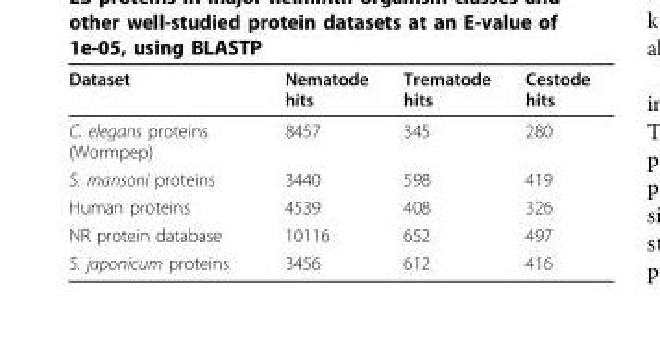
<table><thead><tr><td>Dataset</td><td>Nematode hits</td><td>Trematode hits</td><td>Cestode hits</td></tr></thead><tbody><tr><td>C. elegans proteins (Wormpep)</td><td>8457</td><td>345</td><td>280</td></tr><tr><td>S. mansoni proteins</td><td>3440</td><td>598</td><td>419</td></tr><tr><td>Human proteins</td><td>4539</td><td>408</td><td>326</td></tr><tr><td>NR protein database</td><td>10116</td><td>652</td><td>497</td></tr><tr><td>S. japonicum proteins</td><td>3456</td><td>612</td><td>416</td></tr></tbody></table>